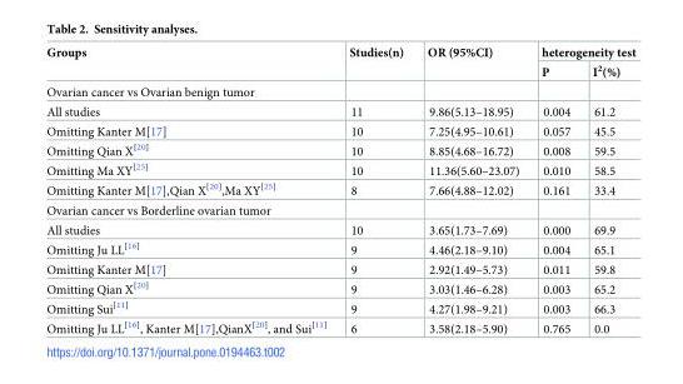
<table><thead><tr><td rowspan="2">Groups</td><td rowspan="2">Studies(n)</td><td rowspan="2">OR (95%CI)</td><td colspan="2">heterogeneity test</td></tr><tr><td>P</td><td>I<sup>2</sup>(%)</td></tr></thead><tbody><tr><td colspan="5">Ovarian cancer vs Ovarian benign tumor</td></tr><tr><td>All studies</td><td>11</td><td>9.86(5.13–18.95)</td><td>0.004</td><td>61.2</td></tr><tr><td>Omitting Kanter M[17]</td><td>10</td><td>7.25(4.95–10.61)</td><td>0.057</td><td>45.5</td></tr><tr><td>Omitting Qian X<sup>[20]</sup></td><td>10</td><td>8.85(4.68–16.72)</td><td>0.008</td><td>59.5</td></tr><tr><td>Omitting Ma XY<sup>[25]</sup></td><td>10</td><td>11.36(5.60–23.07)</td><td>0.010</td><td>58.5</td></tr><tr><td>Omitting Kanter M[17],Qian X<sup>[20]</sup>,Ma XY<sup>[25]</sup></td><td>8</td><td>7.66(4.88–12.02)</td><td>0.161</td><td>33.4</td></tr><tr><td colspan="5">Ovarian cancer vs Borderline ovarian tumor</td></tr><tr><td>All studies</td><td>10</td><td>3.65(1.73–7.69)</td><td>0.000</td><td>69.9</td></tr><tr><td>Omitting Ju LL<sup>[16]</sup></td><td>9</td><td>4.46(2.18–9.10)</td><td>0.004</td><td>65.1</td></tr><tr><td>Omitting Kanter M[17]</td><td>9</td><td>2.92(1.49–5.73)</td><td>0.011</td><td>59.8</td></tr><tr><td>Omitting Qian X<sup>[20]</sup></td><td>9</td><td>3.03(1.46–6.28)</td><td>0.003</td><td>65.2</td></tr><tr><td>Omitting Sui<sup>[11]</sup></td><td>9</td><td>4.27(1.98–9.21)</td><td>0.003</td><td>66.3</td></tr><tr><td>Omitting Ju LL<sup>[16]</sup>, Kanter M[17],QianX<sup>[20]</sup>, and Sui<sup>[11]</sup></td><td>6</td><td>3.58(2.18–5.90)</td><td>0.765</td><td>0.0</td></tr></tbody></table>